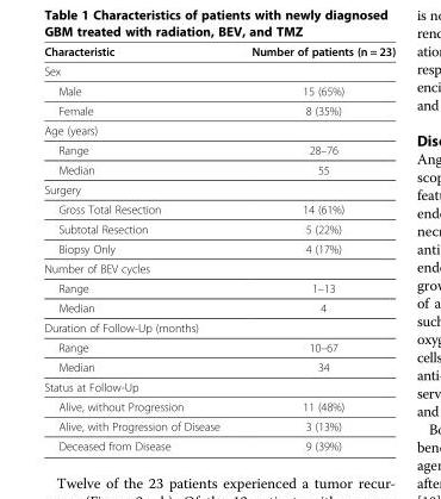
<table><thead><tr><td>Characteristic</td><td>Number of patients (n = 23)</td></tr></thead><tbody><tr><td colspan="2">Sex</td></tr><tr><td>Male</td><td>15 (65%)</td></tr><tr><td>Female</td><td>8 (35%)</td></tr><tr><td colspan="2">Age (years)</td></tr><tr><td>Range</td><td>28–76</td></tr><tr><td>Median</td><td>55</td></tr><tr><td colspan="2">Surgery</td></tr><tr><td>Gross Total Resection</td><td>14 (61%)</td></tr><tr><td>Subtotal Resection</td><td>5 (22%)</td></tr><tr><td>Biopsy Only</td><td>4 (17%)</td></tr><tr><td colspan="2">Number of BEV cycles</td></tr><tr><td>Range</td><td>1–13</td></tr><tr><td>Median</td><td>4</td></tr><tr><td colspan="2">Duration of Follow-Up (months)</td></tr><tr><td>Range</td><td>10–67</td></tr><tr><td>Median</td><td>34</td></tr><tr><td colspan="2">Status at Follow-Up</td></tr><tr><td>Alive, without Progression</td><td>11 (48%)</td></tr><tr><td>Alive, with Progression of Disease</td><td>3 (13%)</td></tr><tr><td>Deceased from Disease</td><td>9 (39%)</td></tr></tbody></table>